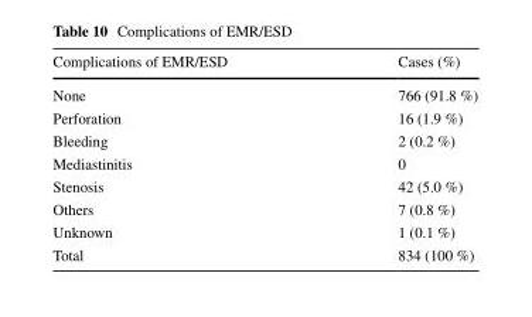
<table><thead><tr><td>Complications of EMR/ESD</td><td>Cases (%)</td></tr></thead><tbody><tr><td>None</td><td>766 (91.8 %)</td></tr><tr><td>Perforation</td><td>16 (1.9 %)</td></tr><tr><td>Bleeding</td><td>2 (0.2 %)</td></tr><tr><td>Mediastinitis</td><td>0</td></tr><tr><td>Stenosis</td><td>42 (5.0 %)</td></tr><tr><td>Others</td><td>7 (0.8 %)</td></tr><tr><td>Unknown</td><td>1 (0.1 %)</td></tr><tr><td>Total</td><td>834 (100 %)</td></tr></tbody></table>